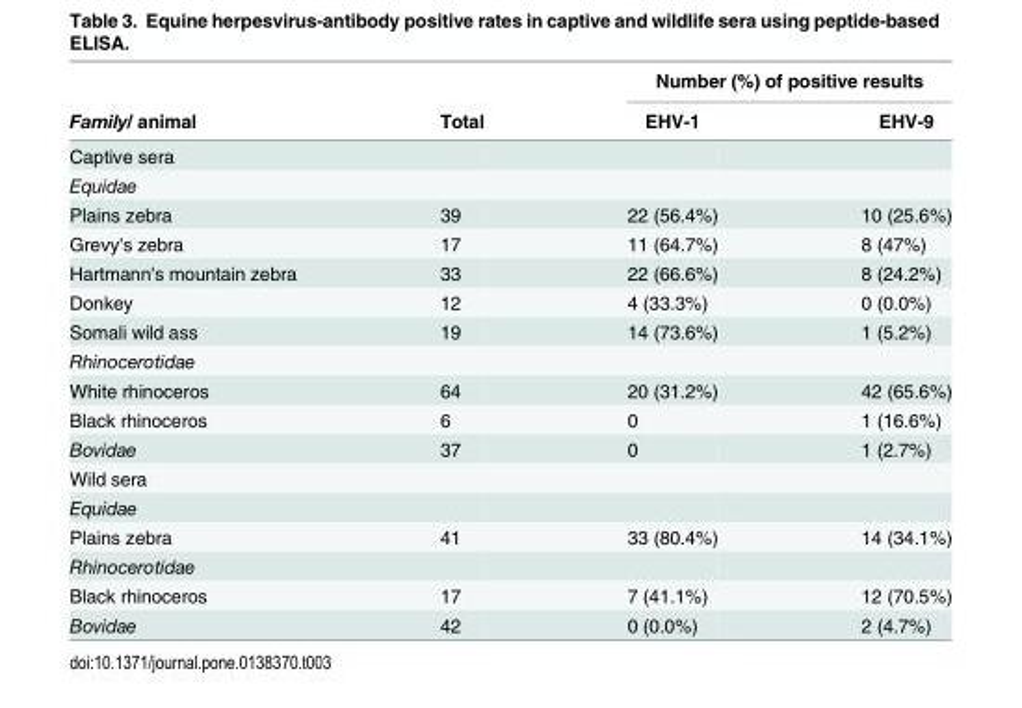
<table><thead><tr><td rowspan="2">Family/ animal</td><td rowspan="2">Total</td><td colspan="2">Number (%) of positive results</td></tr><tr><td>EHV-1</td><td>EHV-9</td></tr></thead><tbody><tr><td colspan="4">Captive sera</td></tr><tr><td colspan="4">Equidae</td></tr><tr><td>Plains zebra</td><td>39</td><td>22 (56.4%)</td><td>10 (25.6%)</td></tr><tr><td>Grevy&#x27;s zebra</td><td>17</td><td>11 (64.7%)</td><td>8 (47%)</td></tr><tr><td>Hartmann&#x27;s mountain zebra</td><td>33</td><td>22 (66.6%)</td><td>8 (24.2%)</td></tr><tr><td>Donkey</td><td>12</td><td>4 (33.3%)</td><td>0 (0.0%)</td></tr><tr><td>Somali wild ass</td><td>19</td><td>14 (73.6%)</td><td>1 (5.2%)</td></tr><tr><td colspan="4">Rhinocerotidae</td></tr><tr><td>White rhinoceros</td><td>64</td><td>20 (31.2%)</td><td>42 (65.6%)</td></tr><tr><td>Black rhinoceros</td><td>6</td><td>0</td><td>1 (16.6%)</td></tr><tr><td>Bovidae</td><td>37</td><td>0</td><td>1 (2.7%)</td></tr><tr><td colspan="4">Wild sera</td></tr><tr><td colspan="4">Equidae</td></tr><tr><td>Plains zebra</td><td>41</td><td>33 (80.4%)</td><td>14 (34.1%)</td></tr><tr><td colspan="4">Rhinocerotidae</td></tr><tr><td>Black rhinoceros</td><td>17</td><td>7 (41.1%)</td><td>12 (70.5%)</td></tr><tr><td>Bovidae</td><td>42</td><td>0 (0.0%)</td><td>2 (4.7%)</td></tr></tbody></table>